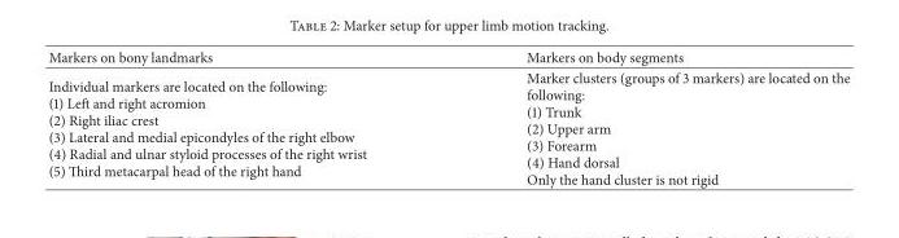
<table><thead><tr><td>Markers on bony landmarks</td><td>Markers on body segments</td></tr></thead><tbody><tr><td>Individual markers are located on the following: (1) Left and right acromion (2) Right iliac crest (3) Lateral and medial epicondyles of the right elbow (4) Radial and ulnar styloid processes of the right wrist (5) Third metacarpal head of the right hand</td><td>Marker clusters (groups of 3 markers) are located on the following: (1) Trunk (2) Upper arm (3) Forearm (4) Hand dorsal Only the hand cluster is not rigid</td></tr></tbody></table>